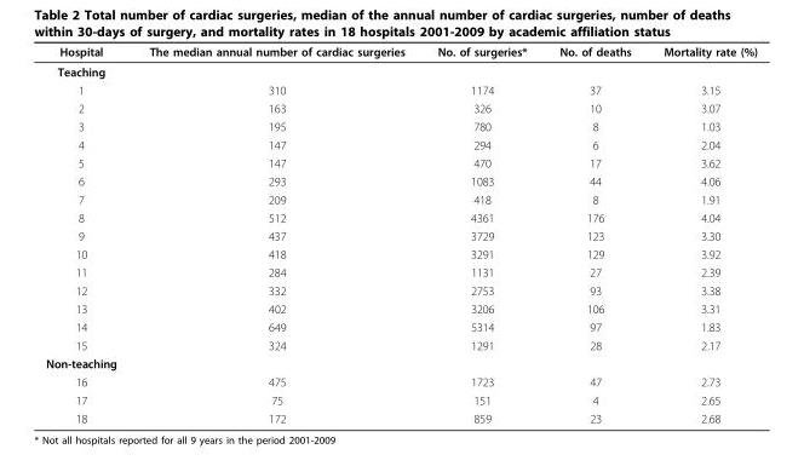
<table><thead><tr><td>Hospital</td><td>The median annual number of cardiac surgeries</td><td>No. of surgeries*</td><td>No. of deaths</td><td>Mortality rate (%)</td></tr></thead><tbody><tr><td colspan="5">Teaching</td></tr><tr><td>1</td><td>310</td><td>1174</td><td>37</td><td>3.15</td></tr><tr><td>2</td><td>163</td><td>326</td><td>10</td><td>3.07</td></tr><tr><td>3</td><td>195</td><td>780</td><td>8</td><td>1.03</td></tr><tr><td>4</td><td>147</td><td>294</td><td>6</td><td>2.04</td></tr><tr><td>5</td><td>147</td><td>470</td><td>17</td><td>3.62</td></tr><tr><td>6</td><td>293</td><td>1083</td><td>44</td><td>4.06</td></tr><tr><td>7</td><td>209</td><td>418</td><td>8</td><td>1.91</td></tr><tr><td>8</td><td>512</td><td>4361</td><td>176</td><td>4.04</td></tr><tr><td>9</td><td>437</td><td>3729</td><td>123</td><td>3.30</td></tr><tr><td>10</td><td>418</td><td>3291</td><td>129</td><td>3.92</td></tr><tr><td>11</td><td>284</td><td>1131</td><td>27</td><td>2.39</td></tr><tr><td>12</td><td>332</td><td>2753</td><td>93</td><td>3.38</td></tr><tr><td>13</td><td>402</td><td>3206</td><td>106</td><td>3.31</td></tr><tr><td>14</td><td>649</td><td>5314</td><td>97</td><td>1.83</td></tr><tr><td>15</td><td>324</td><td>1291</td><td>28</td><td>2.17</td></tr><tr><td colspan="5">Non-teaching</td></tr><tr><td>16</td><td>475</td><td>1723</td><td>47</td><td>2.73</td></tr><tr><td>17</td><td>75</td><td>151</td><td>4</td><td>2.65</td></tr><tr><td>18</td><td>172</td><td>859</td><td>23</td><td>2.68</td></tr></tbody></table>